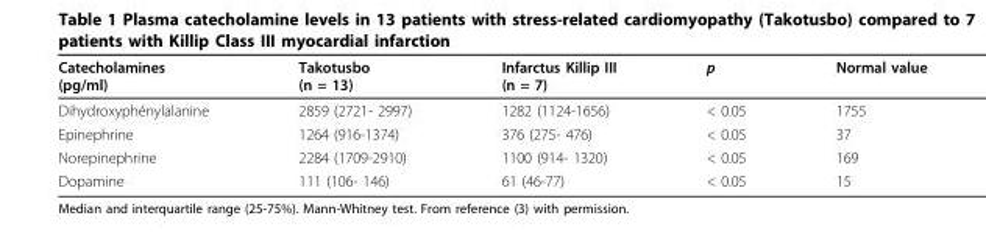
<table><thead><tr><td>Catecholamines (pg/ml)</td><td>Takotusbo (n = 13)</td><td>Infarctus Killip III (n = 7)</td><td>p</td><td>Normal value</td></tr></thead><tbody><tr><td>Dihydroxyphénylalanine</td><td>2859 (2721- 2997)</td><td>1282 (1124-1656)</td><td>&lt; 0.05</td><td>1755</td></tr><tr><td>Epinephrine</td><td>1264 (916-1374)</td><td>376 (275- 476)</td><td>&lt; 0.05</td><td>37</td></tr><tr><td>Norepinephrine</td><td>2284 (1709-2910)</td><td>1100 (914- 1320)</td><td>&lt; 0.05</td><td>169</td></tr><tr><td>Dopamine</td><td>111 (106- 146)</td><td>61 (46-77)</td><td>&lt; 0.05</td><td>15</td></tr></tbody></table>